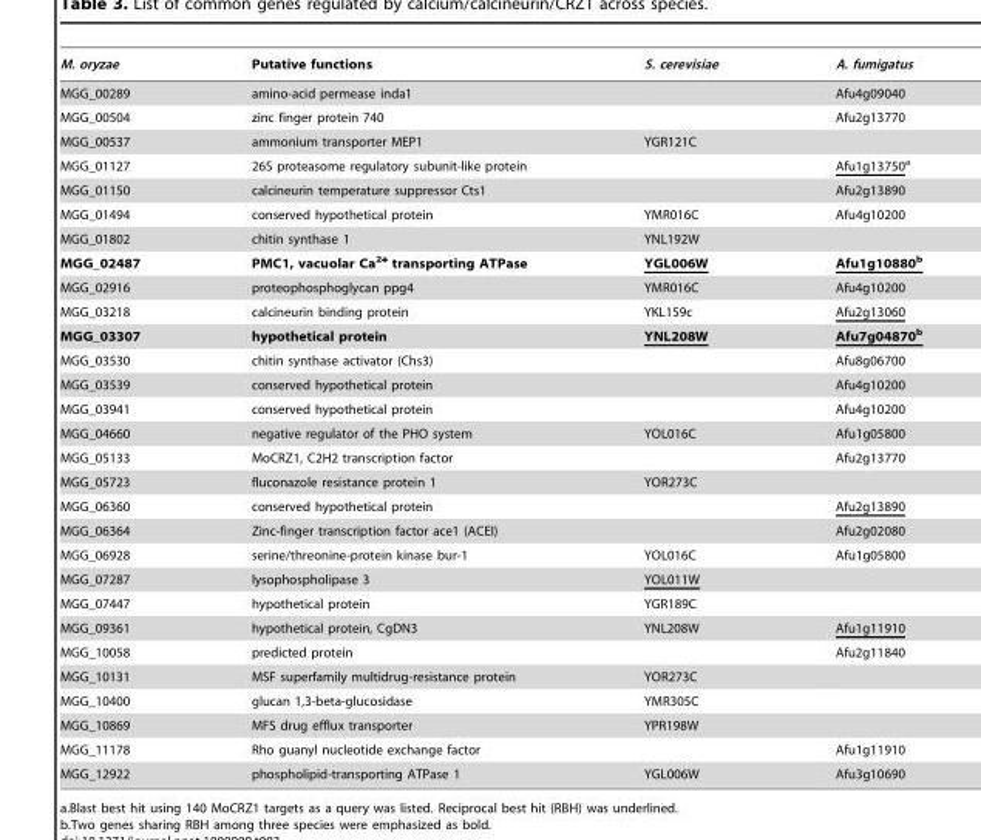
<table><thead><tr><td>M. oryzae</td><td>Putative functions</td><td>S. cerevisiae</td><td>A. fumigatus</td></tr></thead><tbody><tr><td>MGG_00289</td><td>amino-acid permease inda1</td><td></td><td>Afu4g09040</td></tr><tr><td>MGG_00504</td><td>zinc finger protein 740</td><td></td><td>Afu2g13770</td></tr><tr><td>MGG_00537</td><td>ammonium transporter MEP1</td><td>YGR121C</td><td></td></tr><tr><td>MGG_01127</td><td>26S proteasome regulatory subunit-like protein</td><td></td><td>Afu1g13750a</td></tr><tr><td>MGG_01150</td><td>calcineurin temperature suppressor Cts1</td><td></td><td>Afu2g13890</td></tr><tr><td>MGG_01494</td><td>conserved hypothetical protein</td><td>YMR016C</td><td>Afu4g10200</td></tr><tr><td>MGG_01802</td><td>chitin synthase 1</td><td>YNL192W</td><td></td></tr><tr><td>MGG_02487</td><td>PMC1, vacuolar Ca<sup>2+</sup> transporting ATPase</td><td>YGL006W</td><td>Afu1g10880b</td></tr><tr><td>MGG_02916</td><td>proteophosphoglycan ppg4</td><td>YMR016C</td><td>Afu4g10200</td></tr><tr><td>MGG_03218</td><td>calcineurin binding protein</td><td>YKL159c</td><td>Afu2g13060</td></tr><tr><td>MGG_03307</td><td>hypothetical protein</td><td>YNL208W</td><td>Afu7g04870b</td></tr><tr><td>MGG_03530</td><td>chitin synthase activator (Chs3)</td><td></td><td>Afu8g06700</td></tr><tr><td>MGG_03539</td><td>conserved hypothetical protein</td><td></td><td>Afu4g10200</td></tr><tr><td>MGG_03941</td><td>conserved hypothetical protein</td><td></td><td>Afu4g10200</td></tr><tr><td>MGG_04660</td><td>negative regulator of the PHO system</td><td>YOL016C</td><td>Afu1g05800</td></tr><tr><td>MGG_05133</td><td>MoCRZ1, C2H2 transcription factor</td><td></td><td>Afu2g13770</td></tr><tr><td>MGG_05723</td><td>fluconazole resistance protein 1</td><td>YOR273C</td><td></td></tr><tr><td>MGG_06360</td><td>conserved hypothetical protein</td><td></td><td>Afu2g13890</td></tr><tr><td>MGG_06364</td><td>Zinc-finger transcription factor ace1 (ACEI)</td><td></td><td>Afu2g02080</td></tr><tr><td>MGG_06928</td><td>serine/threonine-protein kinase bur-1</td><td>YOL016C</td><td>Afu1g05800</td></tr><tr><td>MGG_07287</td><td>lysophospholipase 3</td><td>YOL011W</td><td></td></tr><tr><td>MGG_07447</td><td>hypothetical protein</td><td>YGR189C</td><td></td></tr><tr><td>MGG_09361</td><td>hypothetical protein, CgDN3</td><td>YNL208W</td><td>Afu1g11910</td></tr><tr><td>MGG_10058</td><td>predicted protein</td><td></td><td>Afu2g11840</td></tr><tr><td>MGG_10131</td><td>MSF superfamily multidrug-resistance protein</td><td>YOR273C</td><td></td></tr><tr><td>MGG_10400</td><td>glucan 1,3-beta-glucosidase</td><td>YMR305C</td><td></td></tr><tr><td>MGG_10869</td><td>MFS drug efflux transporter</td><td>YPR198W</td><td></td></tr><tr><td>MGG_11178</td><td>Rho guanyl nucleotide exchange factor</td><td></td><td>Afu1g11910</td></tr><tr><td>MGG_12922</td><td>phospholipid-transporting ATPase 1</td><td>YGL006W</td><td>Afu3g10690</td></tr></tbody></table>